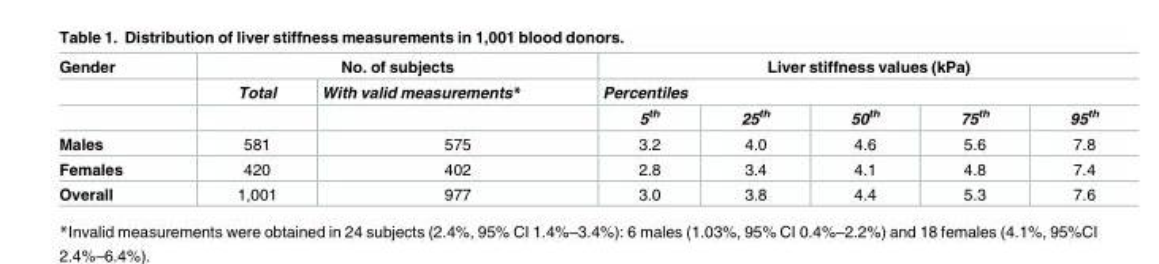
<table><thead><tr><td rowspan="3">Gender</td><td colspan="2">No. of subjects</td><td rowspan="2" colspan="5">Liver stiffness values (kPa) Percentiles</td></tr><tr><td rowspan="2">Total</td><td rowspan="2">With valid measurements*</td></tr><tr><td>5<sup>th</sup></td><td>25<sup>th</sup></td><td>50<sup>th</sup></td><td>75<sup>th</sup></td><td>95<sup>th</sup></td></tr></thead><tbody><tr><td>Males</td><td>581</td><td>575</td><td>3.2</td><td>4.0</td><td>4.6</td><td>5.6</td><td>7.8</td></tr><tr><td>Females</td><td>420</td><td>402</td><td>2.8</td><td>3.4</td><td>4.1</td><td>4.8</td><td>7.4</td></tr><tr><td>Overall</td><td>1,001</td><td>977</td><td>3.0</td><td>3.8</td><td>4.4</td><td>5.3</td><td>7.6</td></tr></tbody></table>